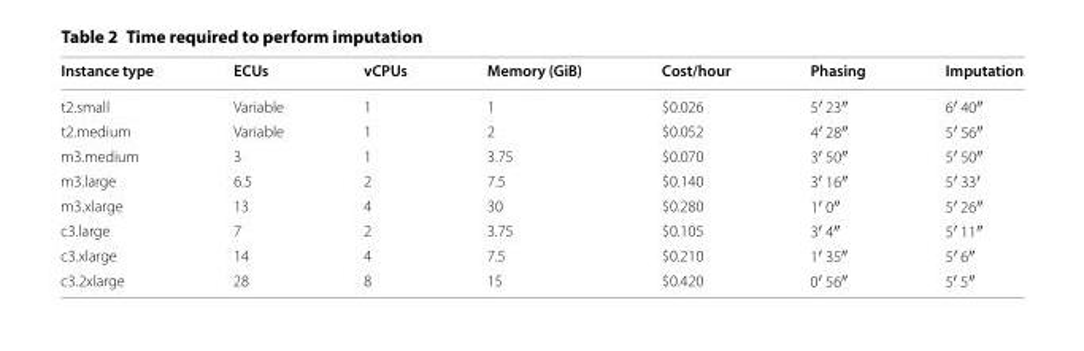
<table><thead><tr><td>Instance type</td><td>ECUs</td><td>vCPUs</td><td>Memory (GiB)</td><td>Cost/hour</td><td>Phasing</td><td>Imputation</td></tr></thead><tbody><tr><td>t2.small</td><td>Variable</td><td>1</td><td>1</td><td>$0.026</td><td>5′ 23″</td><td>6′ 40″</td></tr><tr><td>t2.medium</td><td>Variable</td><td>1</td><td>2</td><td>$0.052</td><td>4′ 28″</td><td>5′ 56″</td></tr><tr><td>m3.medium</td><td>3</td><td>1</td><td>3.75</td><td>$0.070</td><td>3′ 50″</td><td>5′ 50″</td></tr><tr><td>m3.large</td><td>6.5</td><td>2</td><td>7.5</td><td>$0.140</td><td>3′ 16″</td><td>5′ 33′</td></tr><tr><td>m3.xlarge</td><td>13</td><td>4</td><td>30</td><td>$0.280</td><td>1′ 0″</td><td>5′ 26″</td></tr><tr><td>c3.large</td><td>7</td><td>2</td><td>3.75</td><td>$0.105</td><td>3′ 4″</td><td>5′ 11″</td></tr><tr><td>c3.xlarge</td><td>14</td><td>4</td><td>7.5</td><td>$0.210</td><td>1′ 35″</td><td>5′ 6″</td></tr><tr><td>c3.2xlarge</td><td>28</td><td>8</td><td>15</td><td>$0.420</td><td>0′ 56″</td><td>5′ 5″</td></tr></tbody></table>